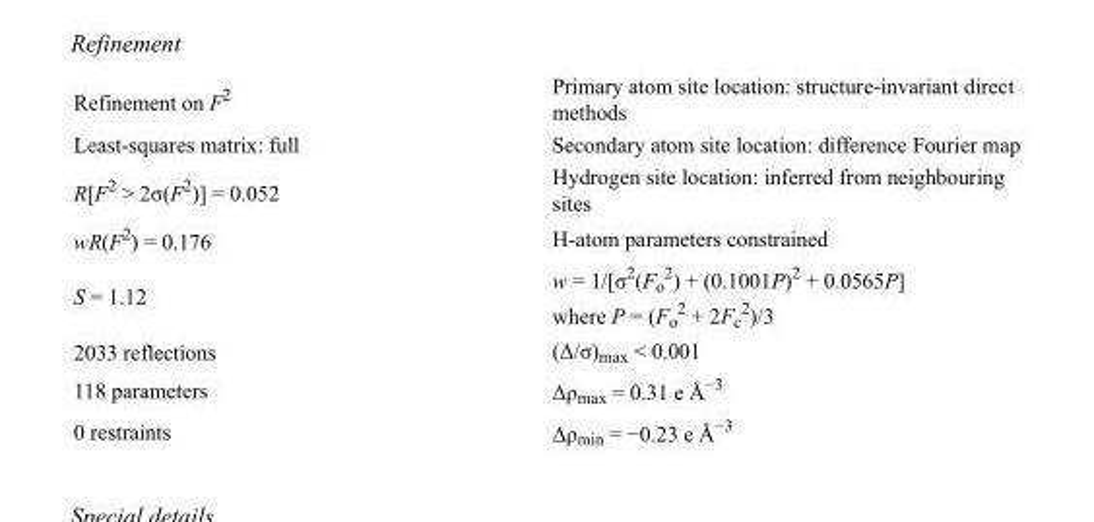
<table><tbody><tr><td>Refinement on F<sup>2</sup></td><td>Primary atom site location: structure-invariant direct methods</td></tr><tr><td>Least-squares matrix: full</td><td>Secondary atom site location: difference Fourier map</td></tr><tr><td>R[F<sup>2</sup> &gt; 2σ(F<sup>2</sup>)] = 0.052</td><td>Hydrogen site location: inferred from neighbouring sites</td></tr><tr><td>wR(F<sup>2</sup>) = 0.176</td><td>H-atom parameters constrained</td></tr><tr><td>S = 1.12</td><td>w = 1/[σ<sup>2</sup>(F<sub>o</sub> <sup>2</sup>) + (0.1001P)<sup>2</sup> + 0.0565P] where P = (F<sub>o</sub> <sup>2</sup> + 2F<sub>c</sub> <sup>2</sup>)/3</td></tr><tr><td>2033 reflections</td><td>(Δ/σ)<sub>max</sub> &lt; 0.001</td></tr><tr><td>118 parameters</td><td>Δρ<sub>max</sub> = 0.31 e Å<sup>−3</sup></td></tr><tr><td>0 restraints</td><td>Δρ<sub>min</sub> = −0.23 e Å<sup>−3</sup></td></tr></tbody></table>